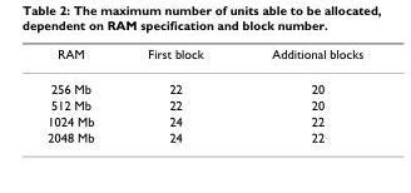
<table><thead><tr><td>RAM</td><td>First block</td><td>Additional blocks</td></tr></thead><tbody><tr><td>256 Mb</td><td>22</td><td>20</td></tr><tr><td>512 Mb</td><td>22</td><td>20</td></tr><tr><td>1024 Mb</td><td>24</td><td>22</td></tr><tr><td>2048 Mb</td><td>24</td><td>22</td></tr></tbody></table>